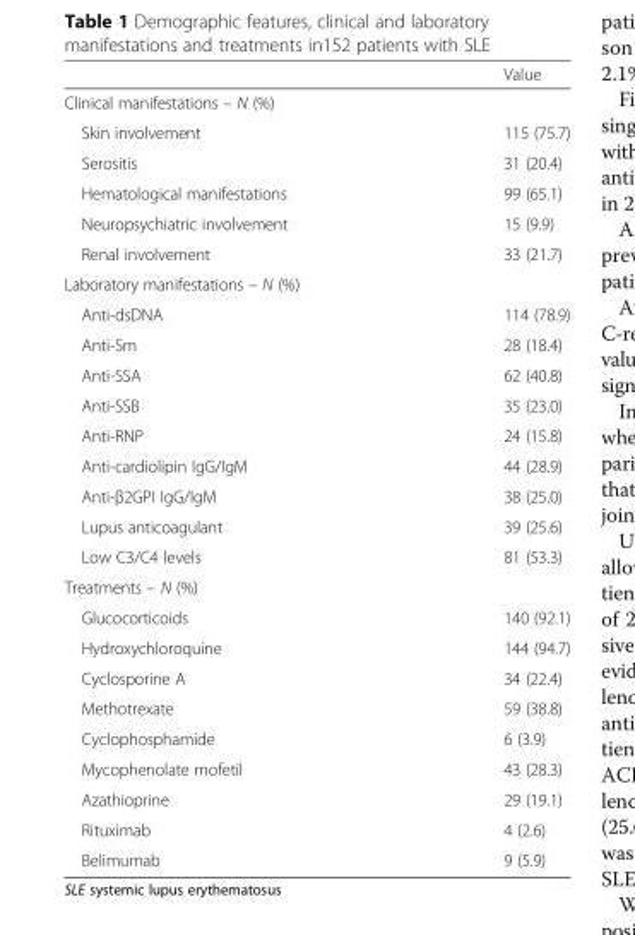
<table><thead><tr><td></td><td>Value</td></tr></thead><tbody><tr><td colspan="2">Clinical manifestations – N (%)</td></tr><tr><td>Skin involvement</td><td>115 (75.7)</td></tr><tr><td>Serositis</td><td>31 (20.4)</td></tr><tr><td>Hematological manifestations</td><td>99 (65.1)</td></tr><tr><td>Neuropsychiatric involvement</td><td>15 (9.9)</td></tr><tr><td>Renal involvement</td><td>33 (21.7)</td></tr><tr><td colspan="2">Laboratory manifestations – N (%)</td></tr><tr><td>Anti-dsDNA</td><td>114 (78.9)</td></tr><tr><td>Anti-Sm</td><td>28 (18.4)</td></tr><tr><td>Anti-SSA</td><td>62 (40.8)</td></tr><tr><td>Anti-SSB</td><td>35 (23.0)</td></tr><tr><td>Anti-RNP</td><td>24 (15.8)</td></tr><tr><td>Anti-cardiolipin IgG/IgM</td><td>44 (28.9)</td></tr><tr><td>Anti-β2GPI IgG/IgM</td><td>38 (25.0)</td></tr><tr><td>Lupus anticoagulant</td><td>39 (25.6)</td></tr><tr><td>Low C3/C4 levels</td><td>81 (53.3)</td></tr><tr><td colspan="2">Treatments – N (%)</td></tr><tr><td>Glucocorticoids</td><td>140 (92.1)</td></tr><tr><td>Hydroxychloroquine</td><td>144 (94.7)</td></tr><tr><td>Cyclosporine A</td><td>34 (22.4)</td></tr><tr><td>Methotrexate</td><td>59 (38.8)</td></tr><tr><td>Cyclophosphamide</td><td>6 (3.9)</td></tr><tr><td>Mycophenolate mofetil</td><td>43 (28.3)</td></tr><tr><td>Azathioprine</td><td>29 (19.1)</td></tr><tr><td>Rituximab</td><td>4 (2.6)</td></tr><tr><td>Belimumab</td><td>9 (5.9)</td></tr></tbody></table>